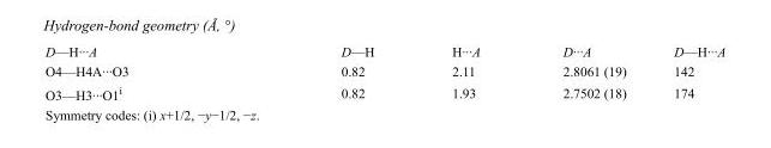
<table><tbody><tr><td>D—H···A</td><td>D—H</td><td>H···A</td><td>D···A</td><td>D—H···A</td></tr><tr><td>O4—H4A···O3</td><td>0.82</td><td>2.11</td><td>2.8061 (19)</td><td>142</td></tr><tr><td>O3—H3···O1<sup>i</sup></td><td>0.82</td><td>1.93</td><td>2.7502 (18)</td><td>174</td></tr></tbody></table>